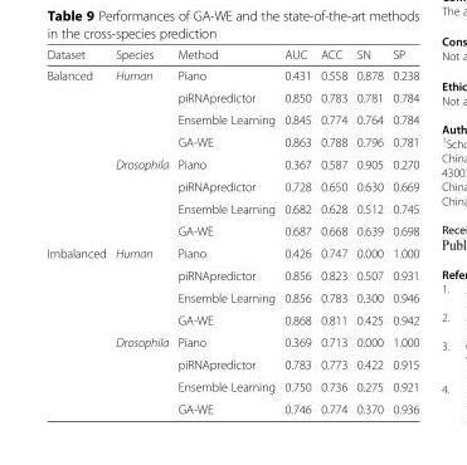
<table><thead><tr><td>Dataset</td><td>Species</td><td>Method</td><td>AUC</td><td>ACC</td><td>SN</td><td>SP</td></tr></thead><tbody><tr><td rowspan="8">Balanced</td><td rowspan="4">Human</td><td>Piano</td><td>0.431</td><td>0.558</td><td>0.878</td><td>0.238</td></tr><tr><td>piRNApredictor</td><td>0.850</td><td>0.783</td><td>0.781</td><td>0.784</td></tr><tr><td>Ensemble Learning</td><td>0.845</td><td>0.774</td><td>0.764</td><td>0.784</td></tr><tr><td>GA-WE</td><td>0.863</td><td>0.788</td><td>0.796</td><td>0.781</td></tr><tr><td rowspan="4">Drosophila</td><td>Piano</td><td>0.367</td><td>0.587</td><td>0.905</td><td>0.270</td></tr><tr><td>piRNApredictor</td><td>0.728</td><td>0.650</td><td>0.630</td><td>0.669</td></tr><tr><td>Ensemble Learning</td><td>0.682</td><td>0.628</td><td>0.512</td><td>0.745</td></tr><tr><td>GA-WE</td><td>0.687</td><td>0.668</td><td>0.639</td><td>0.698</td></tr><tr><td rowspan="8">Imbalanced</td><td rowspan="4">Human</td><td>Piano</td><td>0.426</td><td>0.747</td><td>0.000</td><td>1.000</td></tr><tr><td>piRNApredictor</td><td>0.856</td><td>0.823</td><td>0.507</td><td>0.931</td></tr><tr><td>Ensemble Learning</td><td>0.856</td><td>0.783</td><td>0.300</td><td>0.946</td></tr><tr><td>GA-WE</td><td>0.868</td><td>0.811</td><td>0.425</td><td>0.942</td></tr><tr><td rowspan="4">Drosophila</td><td>Piano</td><td>0.369</td><td>0.713</td><td>0.000</td><td>1.000</td></tr><tr><td>piRNApredictor</td><td>0.783</td><td>0.773</td><td>0.422</td><td>0.915</td></tr><tr><td>Ensemble Learning</td><td>0.750</td><td>0.736</td><td>0.275</td><td>0.921</td></tr><tr><td>GA-WE</td><td>0.746</td><td>0.774</td><td>0.370</td><td>0.936</td></tr></tbody></table>